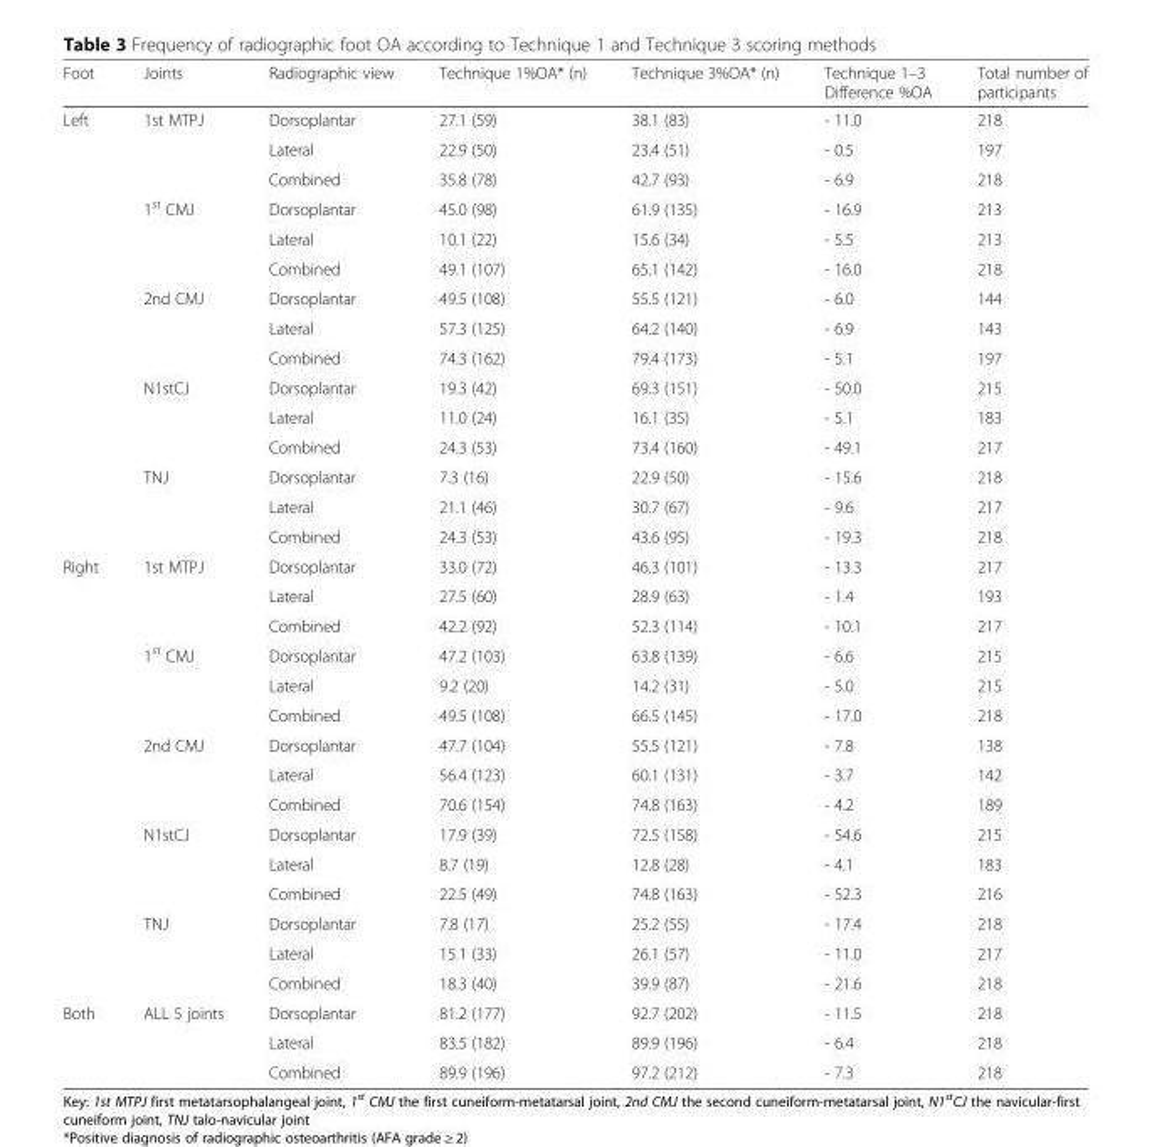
<table><thead><tr><td>Foot</td><td>Joints</td><td>Radiographic view</td><td>Technique 1%OA* (n)</td><td>Technique 3%OA* (n)</td><td>Technique 1–3 Difference %OA</td><td>Total number of participants</td></tr></thead><tbody><tr><td rowspan="15">Left</td><td rowspan="3">1st MTPJ</td><td>Dorsoplantar</td><td>27.1 (59)</td><td>38.1 (83)</td><td>- 11.0</td><td>218</td></tr><tr><td>Lateral</td><td>22.9 (50)</td><td>23.4 (51)</td><td>- 0.5</td><td>197</td></tr><tr><td>Combined</td><td>35.8 (78)</td><td>42.7 (93)</td><td>- 6.9</td><td>218</td></tr><tr><td rowspan="3">1<sup>st</sup> CMJ</td><td>Dorsoplantar</td><td>45.0 (98)</td><td>61.9 (135)</td><td>- 16.9</td><td>213</td></tr><tr><td>Lateral</td><td>10.1 (22)</td><td>15.6 (34)</td><td>- 5.5</td><td>213</td></tr><tr><td>Combined</td><td>49.1 (107)</td><td>65.1 (142)</td><td>- 16.0</td><td>218</td></tr><tr><td rowspan="3">2nd CMJ</td><td>Dorsoplantar</td><td>49.5 (108)</td><td>55.5 (121)</td><td>- 6.0</td><td>144</td></tr><tr><td>Lateral</td><td>57.3 (125)</td><td>64.2 (140)</td><td>- 6.9</td><td>143</td></tr><tr><td>Combined</td><td>74.3 (162)</td><td>79.4 (173)</td><td>- 5.1</td><td>197</td></tr><tr><td rowspan="3">N1stCJ</td><td>Dorsoplantar</td><td>19.3 (42)</td><td>69.3 (151)</td><td>- 50.0</td><td>215</td></tr><tr><td>Lateral</td><td>11.0 (24)</td><td>16.1 (35)</td><td>- 5.1</td><td>183</td></tr><tr><td>Combined</td><td>24.3 (53)</td><td>73.4 (160)</td><td>- 49.1</td><td>217</td></tr><tr><td rowspan="3">TNJ</td><td>Dorsoplantar</td><td>7.3 (16)</td><td>22.9 (50)</td><td>- 15.6</td><td>218</td></tr><tr><td>Lateral</td><td>21.1 (46)</td><td>30.7 (67)</td><td>- 9.6</td><td>217</td></tr><tr><td>Combined</td><td>24.3 (53)</td><td>43.6 (95)</td><td>- 19.3</td><td>218</td></tr><tr><td rowspan="15">Right</td><td rowspan="3">1st MTPJ</td><td>Dorsoplantar</td><td>33.0 (72)</td><td>46.3 (101)</td><td>- 13.3</td><td>217</td></tr><tr><td>Lateral</td><td>27.5 (60)</td><td>28.9 (63)</td><td>- 1.4</td><td>193</td></tr><tr><td>Combined</td><td>42.2 (92)</td><td>52.3 (114)</td><td>- 10.1</td><td>217</td></tr><tr><td rowspan="3">1<sup>st</sup> CMJ</td><td>Dorsoplantar</td><td>47.2 (103)</td><td>63.8 (139)</td><td>- 6.6</td><td>215</td></tr><tr><td>Lateral</td><td>9.2 (20)</td><td>14.2 (31)</td><td>- 5.0</td><td>215</td></tr><tr><td>Combined</td><td>49.5 (108)</td><td>66.5 (145)</td><td>- 17.0</td><td>218</td></tr><tr><td rowspan="3">2nd CMJ</td><td>Dorsoplantar</td><td>47.7 (104)</td><td>55.5 (121)</td><td>- 7.8</td><td>138</td></tr><tr><td>Lateral</td><td>56.4 (123)</td><td>60.1 (131)</td><td>- 3.7</td><td>142</td></tr><tr><td>Combined</td><td>70.6 (154)</td><td>74.8 (163)</td><td>- 4.2</td><td>189</td></tr><tr><td rowspan="3">N1stCJ</td><td>Dorsoplantar</td><td>17.9 (39)</td><td>72.5 (158)</td><td>- 54.6</td><td>215</td></tr><tr><td>Lateral</td><td>8.7 (19)</td><td>12.8 (28)</td><td>- 4.1</td><td>183</td></tr><tr><td>Combined</td><td>22.5 (49)</td><td>74.8 (163)</td><td>- 52.3</td><td>216</td></tr><tr><td rowspan="3">TNJ</td><td>Dorsoplantar</td><td>7.8 (17)</td><td>25.2 (55)</td><td>- 17.4</td><td>218</td></tr><tr><td>Lateral</td><td>15.1 (33)</td><td>26.1 (57)</td><td>- 11.0</td><td>217</td></tr><tr><td>Combined</td><td>18.3 (40)</td><td>39.9 (87)</td><td>- 21.6</td><td>218</td></tr><tr><td rowspan="3">Both</td><td rowspan="3">ALL 5 joints</td><td>Dorsoplantar</td><td>81.2 (177)</td><td>92.7 (202)</td><td>- 11.5</td><td>218</td></tr><tr><td>Lateral</td><td>83.5 (182)</td><td>89.9 (196)</td><td>- 6.4</td><td>218</td></tr><tr><td>Combined</td><td>89.9 (196)</td><td>97.2 (212)</td><td>- 7.3</td><td>218</td></tr></tbody></table>